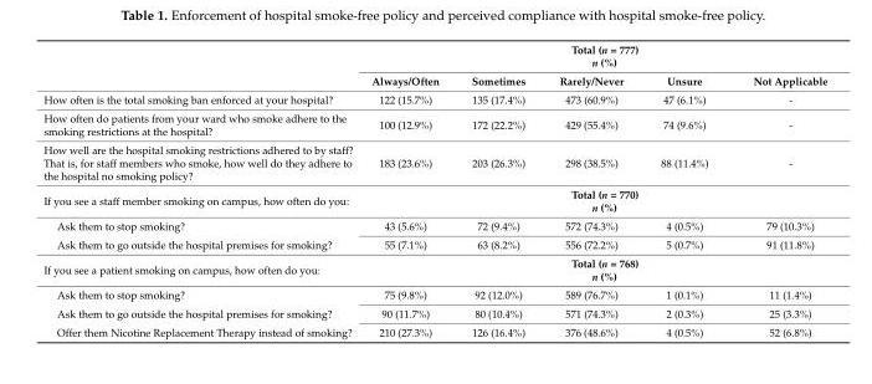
<table><thead><tr><td rowspan="2"></td><td colspan="5">Total (n = 777) n (%)</td></tr><tr><td>Always/Often</td><td>Sometimes</td><td>Rarely/Never</td><td>Unsure</td><td>Not Applicable</td></tr></thead><tbody><tr><td>How often is the total smoking ban enforced at your hospital?</td><td>122 (15.7%)</td><td>135 (17.4%)</td><td>473 (60.9%)</td><td>47 (6.1%)</td><td>-</td></tr><tr><td>How often do patients from your ward who smoke adhere to the smoking restrictions at the hospital?</td><td>100 (12.9%)</td><td>172 (22.2%)</td><td>429 (55.4%)</td><td>74 (9.6%)</td><td>-</td></tr><tr><td>How well are the hospital smoking restrictions adhered to by staff? That is, for staff members who smoke, how well do they adhere to the hospital no smoking policy?</td><td>183 (23.6%)</td><td>203 (26.3%)</td><td>298 (38.5%)</td><td>88 (11.4%)</td><td>-</td></tr><tr><td>If you see a staff member smoking on campus, how often do you:</td><td colspan="5">Total (n = 770) n (%)</td></tr><tr><td>Ask them to stop smoking?</td><td>43 (5.6%)</td><td>72 (9.4%)</td><td>572 (74.3%)</td><td>4 (0.5%)</td><td>79 (10.3%)</td></tr><tr><td>Ask them to go outside the hospital premises for smoking?</td><td>55 (7.1%)</td><td>63 (8.2%)</td><td>556 (72.2%)</td><td>5 (0.7%)</td><td>91 (11.8%)</td></tr><tr><td>If you see a patient smoking on campus, how often do you:</td><td colspan="5">Total (n = 768) n (%)</td></tr><tr><td>Ask them to stop smoking?</td><td>75 (9.8%)</td><td>92 (12.0%)</td><td>589 (76.7%)</td><td>1 (0.1%)</td><td>11 (1.4%)</td></tr><tr><td>Ask them to go outside the hospital premises for smoking?</td><td>90 (11.7%)</td><td>80 (10.4%)</td><td>571 (74.3%)</td><td>2 (0.3%)</td><td>25 (3.3%)</td></tr><tr><td>Offer them Nicotine Replacement Therapy instead of smoking?</td><td>210 (27.3%)</td><td>126 (16.4%)</td><td>376 (48.6%)</td><td>4 (0.5%)</td><td>52 (6.8%)</td></tr></tbody></table>